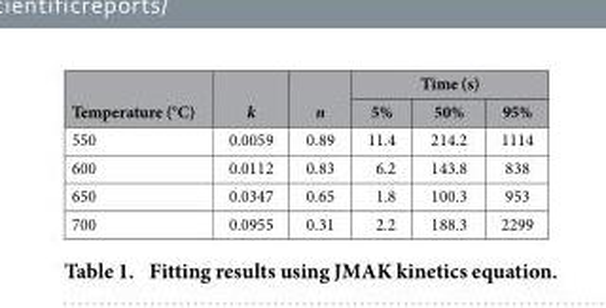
<table><thead><tr><td rowspan="2">Temperature (°C)</td><td rowspan="2">k</td><td rowspan="2">n</td><td colspan="3">Time (s)</td></tr><tr><td>5%</td><td>50%</td><td>95%</td></tr></thead><tbody><tr><td>550</td><td>0.0059</td><td>0.89</td><td>11.4</td><td>214.2</td><td>1114</td></tr><tr><td>600</td><td>0.0112</td><td>0.83</td><td>6.2</td><td>143.8</td><td>838</td></tr><tr><td>650</td><td>0.0347</td><td>0.65</td><td>1.8</td><td>100.3</td><td>953</td></tr><tr><td>700</td><td>0.0955</td><td>0.31</td><td>2.2</td><td>188.3</td><td>2299</td></tr></tbody></table>